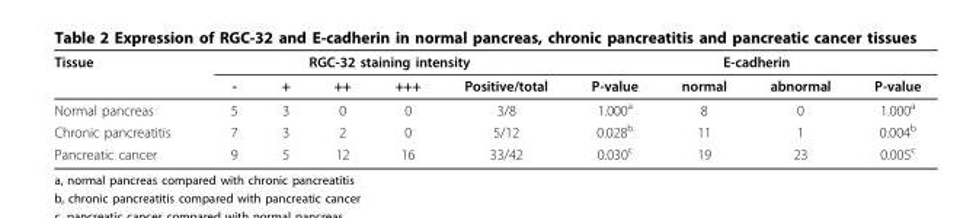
<table><thead><tr><td rowspan="2">Tissue</td><td colspan="5">RGC-32 staining intensity</td><td rowspan="2">P-value</td><td colspan="2">E-cadherin</td><td rowspan="2">P-value</td></tr><tr><td>-</td><td>+</td><td>++</td><td>+++</td><td>Positive/total</td><td>normal</td><td>abnormal</td></tr></thead><tbody><tr><td>Normal pancreas</td><td>5</td><td>3</td><td>0</td><td>0</td><td>3/8</td><td>1.000<sup>a</sup></td><td>8</td><td>0</td><td>1.000<sup>a</sup></td></tr><tr><td>Chronic pancreatitis</td><td>7</td><td>3</td><td>2</td><td>0</td><td>5/12</td><td>0.028<sup>b</sup></td><td>11</td><td>1</td><td>0.004<sup>b</sup></td></tr><tr><td>Pancreatic cancer</td><td>9</td><td>5</td><td>12</td><td>16</td><td>33/42</td><td>0.030<sup>c</sup></td><td>19</td><td>23</td><td>0.005<sup>c</sup></td></tr></tbody></table>